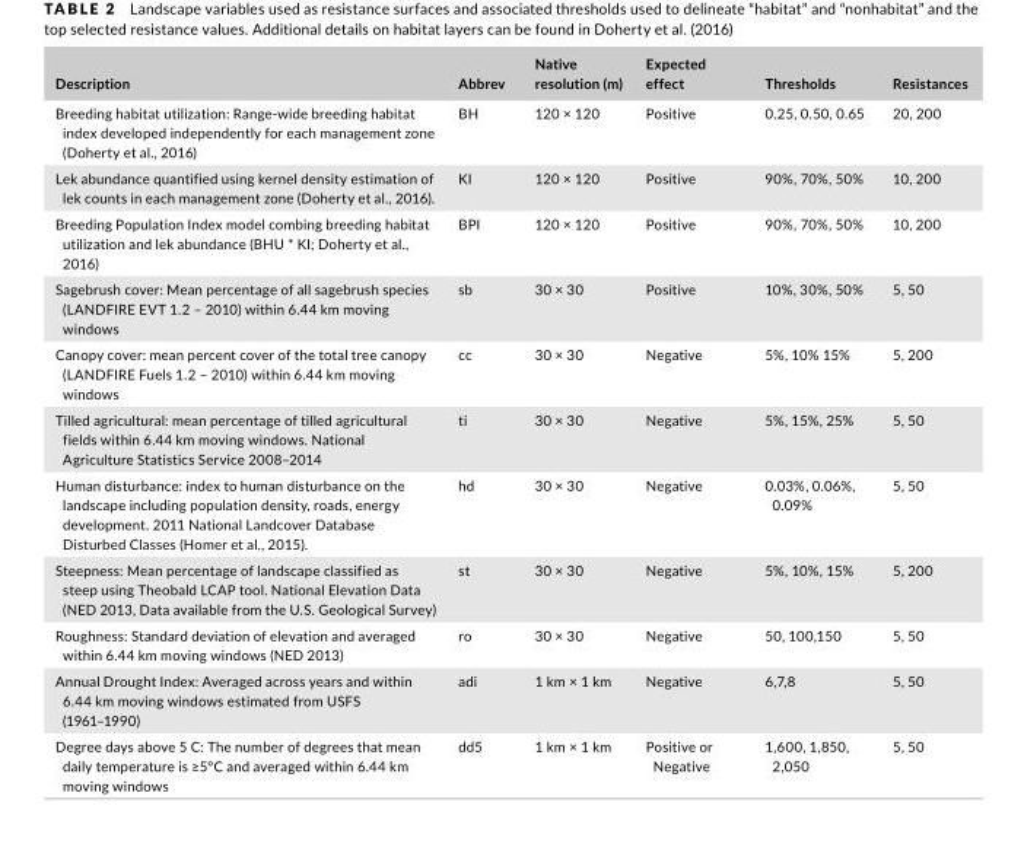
<table><thead><tr><td>Description</td><td>Abbrev</td><td>Native resolution (m)</td><td>Expected effect</td><td>Thresholds</td><td>Resistances</td></tr></thead><tbody><tr><td>Breeding habitat utilization: Range- wide breeding habitat index developed independently for each management zone (Doherty et al., 2016)</td><td>BH</td><td>120 × 120</td><td>Positive</td><td>0.25, 0.50, 0.65</td><td>20, 200</td></tr><tr><td>Lek abundance quantified using kernel density estimation of lek counts in each management zone (Doherty et al., 2016).</td><td>KI</td><td>120 × 120</td><td>Positive</td><td>90%, 70%, 50%</td><td>10, 200</td></tr><tr><td>Breeding Population Index model combing breeding habitat utilization and lek abundance (BHU * KI; Doherty et al., 2016)</td><td>BPI</td><td>120 × 120</td><td>Positive</td><td>90%, 70%, 50%</td><td>10, 200</td></tr><tr><td>Sagebrush cover: Mean percentage of all sagebrush species (LANDFIRE EVT 1.2 – 2010) within 6.44 km moving windows</td><td>sb</td><td>30 × 30</td><td>Positive</td><td>10%, 30%, 50%</td><td>5, 50</td></tr><tr><td>Canopy cover: mean percent cover of the total tree canopy (LANDFIRE Fuels 1.2 – 2010) within 6.44 km moving windows</td><td>cc</td><td>30 × 30</td><td>Negative</td><td>5%, 10% 15%</td><td>5, 200</td></tr><tr><td>Tilled agricultural: mean percentage of tilled agricultural fields within 6.44 km moving windows. National Agriculture Statistics Service 2008–2014</td><td>ti</td><td>30 × 30</td><td>Negative</td><td>5%, 15%, 25%</td><td>5, 50</td></tr><tr><td>Human disturbance: index to human disturbance on the landscape including population density, roads, energy development. 2011 National Landcover Database Disturbed Classes (Homer et al., 2015).</td><td>hd</td><td>30 × 30</td><td>Negative</td><td>0.03%, 0.06%, 0.09%</td><td>5, 50</td></tr><tr><td>Steepness: Mean percentage of landscape classified as steep using Theobald LCAP tool. National Elevation Data (NED 2013, Data available from the U.S. Geological Survey)</td><td>st</td><td>30 × 30</td><td>Negative</td><td>5%, 10%, 15%</td><td>5, 200</td></tr><tr><td>Roughness: Standard deviation of elevation and averaged within 6.44 km moving windows (NED 2013)</td><td>ro</td><td>30 × 30</td><td>Negative</td><td>50, 100,150</td><td>5, 50</td></tr><tr><td>Annual Drought Index: Averaged across years and within 6.44 km moving windows estimated from USFS (1961–1990)</td><td>adi</td><td>1 km × 1 km</td><td>Negative</td><td>6,7,8</td><td>5, 50</td></tr><tr><td>Degree days above 5 C: The number of degrees that mean daily temperature is ≥5°C and averaged within 6.44 km moving windows</td><td>dd5</td><td>1 km × 1 km</td><td>Positive or Negative</td><td>1,600, 1,850, 2,050</td><td>5, 50</td></tr></tbody></table>